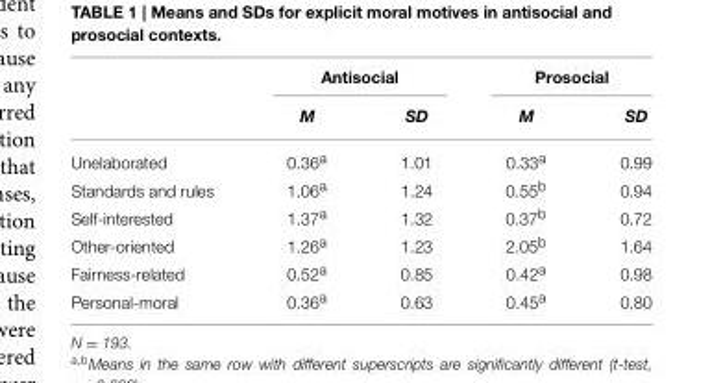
<table><thead><tr><td rowspan="2"></td><td colspan="2">Antisocial</td><td colspan="2">Prosocial</td></tr><tr><td>M</td><td>SD</td><td>M</td><td>SD</td></tr></thead><tbody><tr><td>Unelaborated</td><td>0.36<sup>a</sup></td><td>1.01</td><td>0.33<sup>a</sup></td><td>0.99</td></tr><tr><td>Standards and rules</td><td>1.06<sup>a</sup></td><td>1.24</td><td>0.55<sup>b</sup></td><td>0.94</td></tr><tr><td>Self-interested</td><td>1.37<sup>a</sup></td><td>1.32</td><td>0.37<sup>b</sup></td><td>0.72</td></tr><tr><td>Other-oriented</td><td>1.26<sup>a</sup></td><td>1.23</td><td>2.05<sup>b</sup></td><td>1.64</td></tr><tr><td>Fairness-related</td><td>0.52<sup>a</sup></td><td>0.85</td><td>0.42<sup>a</sup></td><td>0.98</td></tr><tr><td>Personal-moral</td><td>0.36<sup>a</sup></td><td>0.63</td><td>0.45<sup>a</sup></td><td>0.80</td></tr></tbody></table>